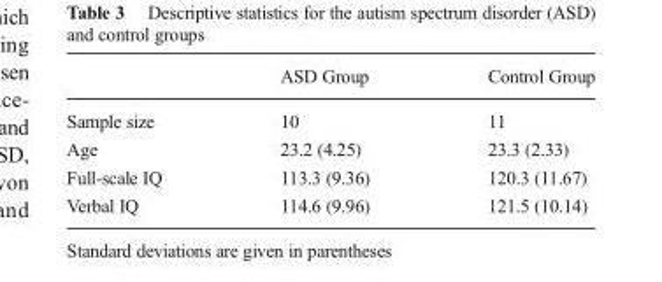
<table><thead><tr><td></td><td>ASD Group</td><td>Control Group</td></tr></thead><tbody><tr><td>Sample size</td><td>10</td><td>11</td></tr><tr><td>Age</td><td>23.2 (4.25)</td><td>23.3 (2.33)</td></tr><tr><td>Full-scale IQ</td><td>113.3 (9.36)</td><td>120.3 (11.67)</td></tr><tr><td>Verbal IQ</td><td>114.6 (9.96)</td><td>121.5 (10.14)</td></tr></tbody></table>